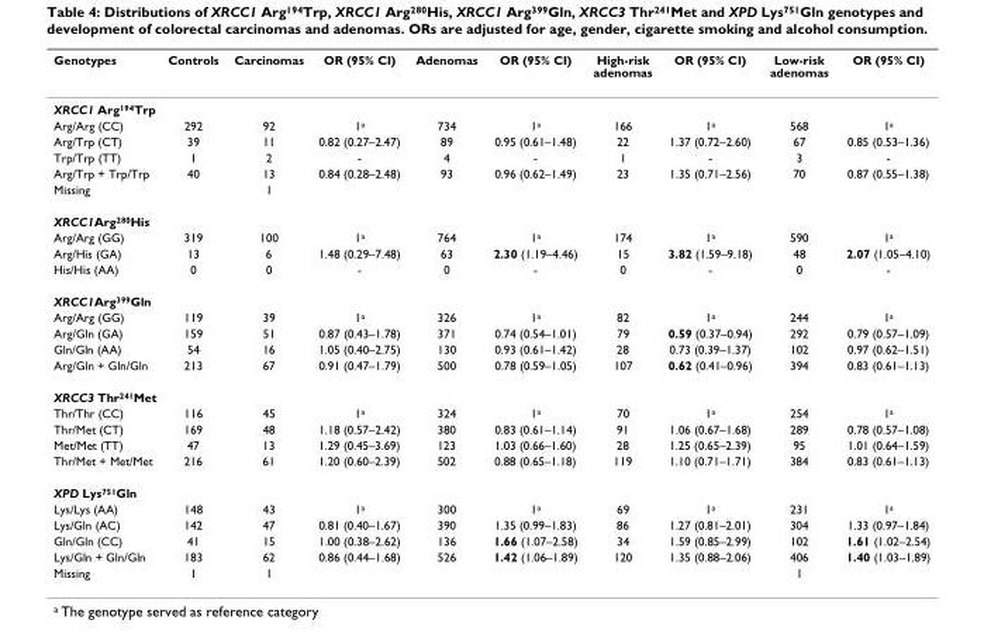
<table><thead><tr><td>Genotypes</td><td>Controls</td><td>Carcinomas</td><td>OR (95% CI)</td><td>Adenomas</td><td>OR (95% CI)</td><td>High-risk adenomas</td><td>OR (95% CI)</td><td>Low-risk adenomas</td><td>OR (95% CI)</td></tr></thead><tbody><tr><td colspan="10">XRCC1 Arg194Trp</td></tr><tr><td>Arg/Arg (CC)</td><td>292</td><td>92</td><td>1a</td><td>734</td><td>1a</td><td>166</td><td>1a</td><td>568</td><td>1a</td></tr><tr><td>Arg/Trp (CT)</td><td>39</td><td>11</td><td>0.82 (0.27–2.47)</td><td>89</td><td>0.95 (0.61–1.48)</td><td>22</td><td>1.37 (0.72–2.60)</td><td>67</td><td>0.85 (0.53–1.36)</td></tr><tr><td>Trp/Trp (TT)</td><td>1</td><td>2</td><td>-</td><td>4</td><td>-</td><td>1</td><td>-</td><td>3</td><td>-</td></tr><tr><td>Arg/Trp + Trp/Trp</td><td>40</td><td>13</td><td>0.84 (0.28–2.48)</td><td>93</td><td>0.96 (0.62–1.49)</td><td>23</td><td>1.35 (0.71–2.56)</td><td>70</td><td>0.87 (0.55–1.38)</td></tr><tr><td>Missing</td><td></td><td>1</td><td></td><td></td><td></td><td></td><td></td><td></td><td></td></tr><tr><td colspan="10">XRCC1Arg280His</td></tr><tr><td>Arg/Arg (GG)</td><td>319</td><td>100</td><td>1a</td><td>764</td><td>1a</td><td>174</td><td>1a</td><td>590</td><td>1a</td></tr><tr><td>Arg/His (GA)</td><td>13</td><td>6</td><td>1.48 (0.29–7.48)</td><td>63</td><td>2.30 (1.19–4.46)</td><td>15</td><td>3.82 (1.59–9.18)</td><td>48</td><td>2.07 (1.05–4.10)</td></tr><tr><td>His/His (AA)</td><td>0</td><td>0</td><td>-</td><td>0</td><td>-</td><td>0</td><td>-</td><td>0</td><td>-</td></tr><tr><td colspan="10">XRCC1Arg399Gln</td></tr><tr><td>Arg/Arg (GG)</td><td>119</td><td>39</td><td>1a</td><td>326</td><td>1a</td><td>82</td><td>1a</td><td>244</td><td>1a</td></tr><tr><td>Arg/Gln (GA)</td><td>159</td><td>51</td><td>0.87 (0.43–1.78)</td><td>371</td><td>0.74 (0.54–1.01)</td><td>79</td><td>0.59 (0.37–0.94)</td><td>292</td><td>0.79 (0.57–1.09)</td></tr><tr><td>Gln/Gln (AA)</td><td>54</td><td>16</td><td>1.05 (0.40–2.75)</td><td>130</td><td>0.93 (0.61–1.42)</td><td>28</td><td>0.73 (0.39–1.37)</td><td>102</td><td>0.97 (0.62–1.51)</td></tr><tr><td>Arg/Gln + Gln/Gln</td><td>213</td><td>67</td><td>0.91 (0.47–1.79)</td><td>500</td><td>0.78 (0.59–1.05)</td><td>107</td><td>0.62 (0.41–0.96)</td><td>394</td><td>0.83 (0.61–1.13)</td></tr><tr><td colspan="10">XRCC3 Thr241Met</td></tr><tr><td>Thr/Thr (CC)</td><td>116</td><td>45</td><td>1a</td><td>324</td><td>1a</td><td>70</td><td>1a</td><td>254</td><td>1a</td></tr><tr><td>Thr/Met (CT)</td><td>169</td><td>48</td><td>1.18 (0.57–2.42)</td><td>380</td><td>0.83 (0.61–1.14)</td><td>91</td><td>1.06 (0.67–1.68)</td><td>289</td><td>0.78 (0.57–1.08)</td></tr><tr><td>Met/Met (TT)</td><td>47</td><td>13</td><td>1.29 (0.45–3.69)</td><td>123</td><td>1.03 (0.66–1.60)</td><td>28</td><td>1.25 (0.65–2.39)</td><td>95</td><td>1.01 (0.64–1.59)</td></tr><tr><td>Thr/Met + Met/Met</td><td>216</td><td>61</td><td>1.20 (0.60–2.39)</td><td>502</td><td>0.88 (0.65–1.18)</td><td>119</td><td>1.10 (0.71–1.71)</td><td>384</td><td>0.83 (0.61–1.13)</td></tr><tr><td colspan="10">XPD Lys751Gln</td></tr><tr><td>Lys/Lys (AA)</td><td>148</td><td>43</td><td>1a</td><td>300</td><td>1a</td><td>69</td><td>1a</td><td>231</td><td>1a</td></tr><tr><td>Lys/Gln (AC)</td><td>142</td><td>47</td><td>0.81 (0.40–1.67)</td><td>390</td><td>1.35 (0.99–1.83)</td><td>86</td><td>1.27 (0.81–2.01)</td><td>304</td><td>1.33 (0.97–1.84)</td></tr><tr><td>Gln/Gln (CC)</td><td>41</td><td>15</td><td>1.00 (0.38–2.62)</td><td>136</td><td>1.66 (1.07–2.58)</td><td>34</td><td>1.59 (0.85–2.99)</td><td>102</td><td>1.61 (1.02–2.54)</td></tr><tr><td>Lys/Gln + Gln/Gln</td><td>183</td><td>62</td><td>0.86 (0.44–1.68)</td><td>526</td><td>1.42 (1.06–1.89)</td><td>120</td><td>1.35 (0.88–2.06)</td><td>406</td><td>1.40 (1.03–1.89)</td></tr><tr><td>Missing</td><td>1</td><td>1</td><td></td><td></td><td></td><td></td><td></td><td>1</td><td></td></tr></tbody></table>